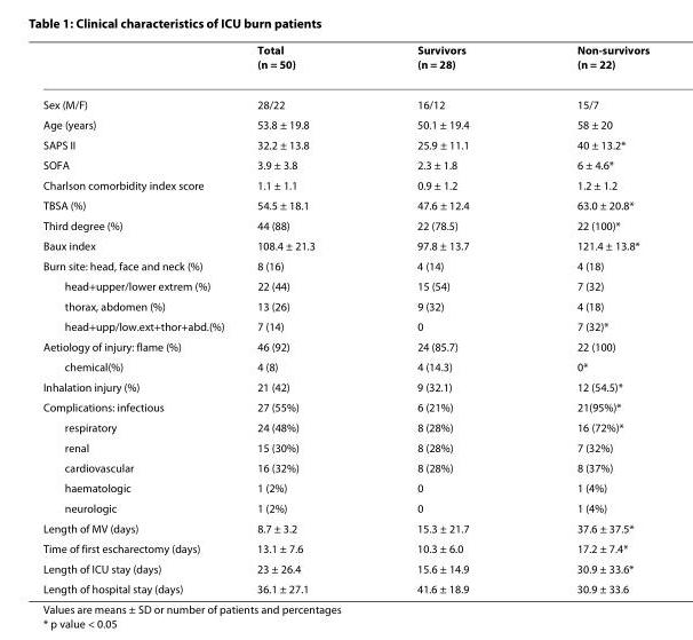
<table><thead><tr><td></td><td>Total (n = 50)</td><td>Survivors (n = 28)</td><td>Non-survivors (n = 22)</td></tr></thead><tbody><tr><td>Sex (M/F)</td><td>28/22</td><td>16/12</td><td>15/7</td></tr><tr><td>Age (years)</td><td>53.8 ± 19.8</td><td>50.1 ± 19.4</td><td>58 ± 20</td></tr><tr><td>SAPS II</td><td>32.2 ± 13.8</td><td>25.9 ± 11.1</td><td>40 ± 13.2*</td></tr><tr><td>SOFA</td><td>3.9 ± 3.8</td><td>2.3 ± 1.8</td><td>6 ± 4.6*</td></tr><tr><td>Charlson comorbidity index score</td><td>1.1 ± 1.1</td><td>0.9 ± 1.2</td><td>1.2 ± 1.2</td></tr><tr><td>TBSA (%)</td><td>54.5 ± 18.1</td><td>47.6 ± 12.4</td><td>63.0 ± 20.8*</td></tr><tr><td>Third degree (%)</td><td>44 (88)</td><td>22 (78.5)</td><td>22 (100)*</td></tr><tr><td>Baux index</td><td>108.4 ± 21.3</td><td>97.8 ± 13.7</td><td>121.4 ± 13.8*</td></tr><tr><td>Burn site: head, face and neck (%)</td><td>8 (16)</td><td>4 (14)</td><td>4 (18)</td></tr><tr><td>head+upper/lower extrem (%)</td><td>22 (44)</td><td>15 (54)</td><td>7 (32)</td></tr><tr><td>thorax, abdomen (%)</td><td>13 (26)</td><td>9 (32)</td><td>4 (18)</td></tr><tr><td>head+upp/low.ext+thor+abd.(%)</td><td>7 (14)</td><td>0</td><td>7 (32)*</td></tr><tr><td>Aetiology of injury: flame (%)</td><td>46 (92)</td><td>24 (85.7)</td><td>22 (100)</td></tr><tr><td>chemical(%)</td><td>4 (8)</td><td>4 (14.3)</td><td>0*</td></tr><tr><td>Inhalation injury (%)</td><td>21 (42)</td><td>9 (32.1)</td><td>12 (54.5)*</td></tr><tr><td>Complications: infectious</td><td>27 (55%)</td><td>6 (21%)</td><td>21(95%)*</td></tr><tr><td>respiratory</td><td>24 (48%)</td><td>8 (28%)</td><td>16 (72%)*</td></tr><tr><td>renal</td><td>15 (30%)</td><td>8 (28%)</td><td>7 (32%)</td></tr><tr><td>cardiovascular</td><td>16 (32%)</td><td>8 (28%)</td><td>8 (37%)</td></tr><tr><td>haematologic</td><td>1 (2%)</td><td>0</td><td>1 (4%)</td></tr><tr><td>neurologic</td><td>1 (2%)</td><td>0</td><td>1 (4%)</td></tr><tr><td>Length of MV (days)</td><td>8.7 ± 3.2</td><td>15.3 ± 21.7</td><td>37.6 ± 37.5*</td></tr><tr><td>Time of first escharectomy (days)</td><td>13.1 ± 7.6</td><td>10.3 ± 6.0</td><td>17.2 ± 7.4*</td></tr><tr><td>Length of ICU stay (days)</td><td>23 ± 26.4</td><td>15.6 ± 14.9</td><td>30.9 ± 33.6*</td></tr><tr><td>Length of hospital stay (days)</td><td>36.1 ± 27.1</td><td>41.6 ± 18.9</td><td>30.9 ± 33.6</td></tr></tbody></table>